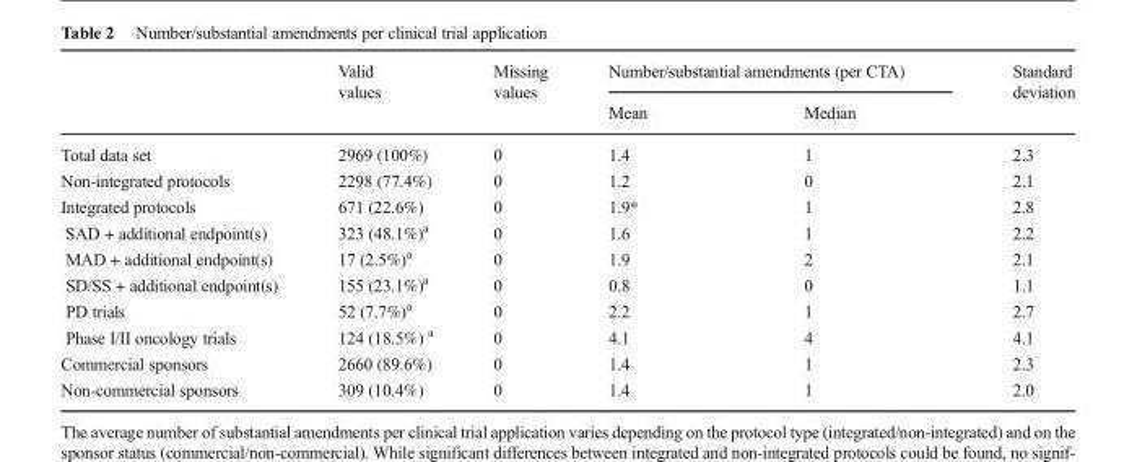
<table><thead><tr><td rowspan="2"></td><td rowspan="2">Valid values</td><td rowspan="2">Missing values</td><td colspan="2">Number/substantial amendments (per CTA)</td><td rowspan="2">Standard deviation</td></tr><tr><td>Mean</td><td>Median</td></tr></thead><tbody><tr><td>Total data set</td><td>2969 (100%)</td><td>0</td><td>1.4</td><td>1</td><td>2.3</td></tr><tr><td>Non-integrated protocols</td><td>2298 (77.4%)</td><td>0</td><td>1.2</td><td>0</td><td>2.1</td></tr><tr><td>Integrated protocols</td><td>671 (22.6%)</td><td>0</td><td>1.9*</td><td>1</td><td>2.8</td></tr><tr><td>SAD + additional endpoint(s)</td><td>323 (48.1%)<sup>a</sup></td><td>0</td><td>1.6</td><td>1</td><td>2.2</td></tr><tr><td>MAD + additional endpoint(s)</td><td>17 (2.5%)<sup>a</sup></td><td>0</td><td>1.9</td><td>2</td><td>2.1</td></tr><tr><td>SD/SS + additional endpoint(s)</td><td>155 (23.1%)<sup>a</sup></td><td>0</td><td>0.8</td><td>0</td><td>1.1</td></tr><tr><td>PD trials</td><td>52 (7.7%)<sup>a</sup></td><td>0</td><td>2.2</td><td>1</td><td>2.7</td></tr><tr><td>Phase I/II oncology trials</td><td>124 (18.5%) <sup>a</sup></td><td>0</td><td>4.1</td><td>4</td><td>4.1</td></tr><tr><td>Commercial sponsors</td><td>2660 (89.6%)</td><td>0</td><td>1.4</td><td>1</td><td>2.3</td></tr><tr><td>Non-commercial sponsors</td><td>309 (10.4%)</td><td>0</td><td>1.4</td><td>1</td><td>2.0</td></tr></tbody></table>